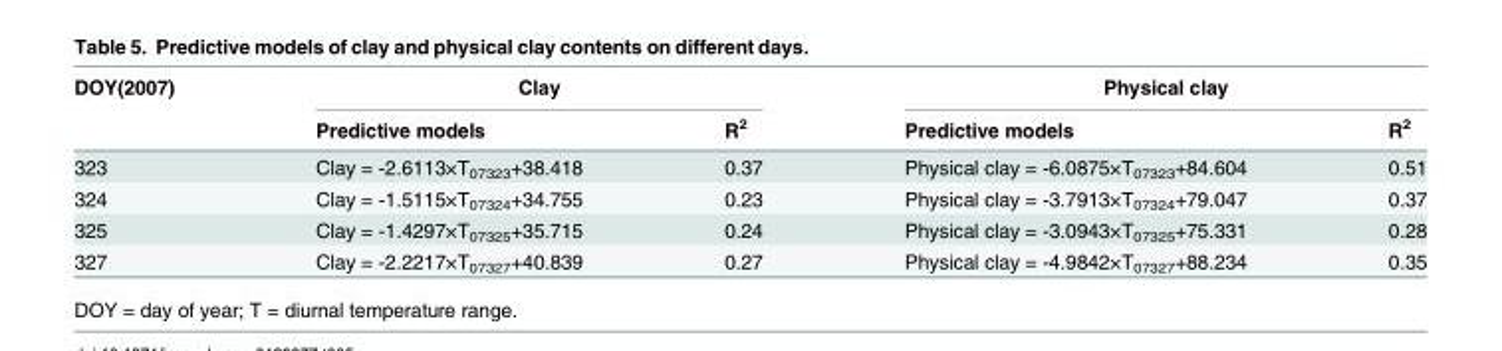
<table><thead><tr><td rowspan="2">DOY(2007)</td><td colspan="2">Clay</td><td colspan="2">Physical clay</td></tr><tr><td>Predictive models</td><td>R<sup>2</sup></td><td>Predictive models</td><td>R<sup>2</sup></td></tr></thead><tbody><tr><td>323</td><td>Clay = -2.6113×T<sub>07323</sub>+38.418</td><td>0.37</td><td>Physical clay = -6.0875×T<sub>07323</sub>+84.604</td><td>0.51</td></tr><tr><td>324</td><td>Clay = -1.5115×T<sub>07324</sub>+34.755</td><td>0.23</td><td>Physical clay = -3.7913×T<sub>07324</sub>+79.047</td><td>0.37</td></tr><tr><td>325</td><td>Clay = -1.4297×T<sub>07325</sub>+35.715</td><td>0.24</td><td>Physical clay = -3.0943×T<sub>07325</sub>+75.331</td><td>0.28</td></tr><tr><td>327</td><td>Clay = -2.2217×T<sub>07327</sub>+40.839</td><td>0.27</td><td>Physical clay = -4.9842×T<sub>07327</sub>+88.234</td><td>0.35</td></tr></tbody></table>